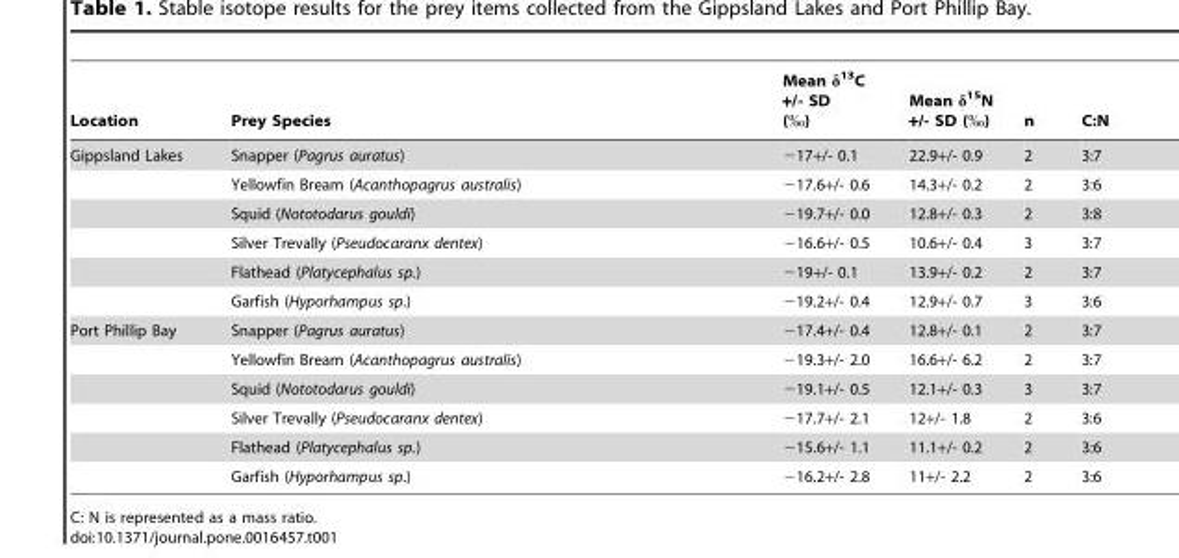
<table><thead><tr><td>Location</td><td>Prey Species</td><td>Mean δ<sup>13</sup>C +/- SD (‰)</td><td>Mean δ<sup>15</sup>N +/- SD (‰)</td><td>n</td><td>C:N</td></tr></thead><tbody><tr><td rowspan="6">Gippsland Lakes</td><td>Snapper (Pagrus auratus)</td><td>−17+/- 0.1</td><td>22.9+/- 0.9</td><td>2</td><td>3:7</td></tr><tr><td>Yellowfin Bream (Acanthopagrus australis)</td><td>−17.6+/- 0.6</td><td>14.3+/- 0.2</td><td>2</td><td>3:6</td></tr><tr><td>Squid (Nototodarus gouldi)</td><td>−19.7+/- 0.0</td><td>12.8+/- 0.3</td><td>2</td><td>3:8</td></tr><tr><td>Silver Trevally (Pseudocaranx dentex)</td><td>−16.6+/- 0.5</td><td>10.6+/- 0.4</td><td>3</td><td>3:7</td></tr><tr><td>Flathead (Platycephalus sp.)</td><td>−19+/- 0.1</td><td>13.9+/- 0.2</td><td>2</td><td>3:7</td></tr><tr><td>Garfish (Hyporhampus sp.)</td><td>−19.2+/- 0.4</td><td>12.9+/- 0.7</td><td>3</td><td>3:6</td></tr><tr><td rowspan="6">Port Phillip Bay</td><td>Snapper (Pagrus auratus)</td><td>−17.4+/- 0.4</td><td>12.8+/- 0.1</td><td>2</td><td>3:7</td></tr><tr><td>Yellowfin Bream (Acanthopagrus australis)</td><td>−19.3+/- 2.0</td><td>16.6+/- 6.2</td><td>2</td><td>3:7</td></tr><tr><td>Squid (Nototodarus gouldi)</td><td>−19.1+/- 0.5</td><td>12.1+/- 0.3</td><td>3</td><td>3:7</td></tr><tr><td>Silver Trevally (Pseudocaranx dentex)</td><td>−17.7+/- 2.1</td><td>12+/- 1.8</td><td>2</td><td>3:6</td></tr><tr><td>Flathead (Platycephalus sp.)</td><td>−15.6+/- 1.1</td><td>11.1+/- 0.2</td><td>2</td><td>3:6</td></tr><tr><td>Garfish (Hyporhampus sp.)</td><td>−16.2+/- 2.8</td><td>11+/- 2.2</td><td>2</td><td>3:6</td></tr></tbody></table>